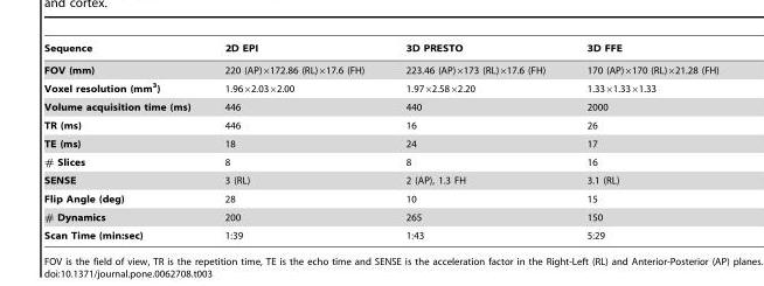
<table><thead><tr><td>Sequence</td><td>2D EPI</td><td>3D PRESTO</td><td>3D FFE</td></tr></thead><tbody><tr><td>FOV (mm)</td><td>220 (AP)×172.86 (RL)×17.6 (FH)</td><td>223.46 (AP)×173 (RL)×17.6 (FH)</td><td>170 (AP)×170 (RL)×21.28 (FH)</td></tr><tr><td>Voxel resolution (mm<sup>3</sup>)</td><td>1.96×2.03×2.00</td><td>1.97×2.58×2.20</td><td>1.33×1.33×1.33</td></tr><tr><td>Volume acquisition time (ms)</td><td>446</td><td>440</td><td>2000</td></tr><tr><td>TR (ms)</td><td>446</td><td>16</td><td>26</td></tr><tr><td>TE (ms)</td><td>18</td><td>24</td><td>17</td></tr><tr><td># Slices</td><td>8</td><td>8</td><td>16</td></tr><tr><td>SENSE</td><td>3 (RL)</td><td>2 (AP), 1.3 FH</td><td>3.1 (RL)</td></tr><tr><td>Flip Angle (deg)</td><td>28</td><td>10</td><td>15</td></tr><tr><td># Dynamics</td><td>200</td><td>265</td><td>150</td></tr><tr><td>Scan Time (min:sec)</td><td>1:39</td><td>1:43</td><td>5:29</td></tr></tbody></table>